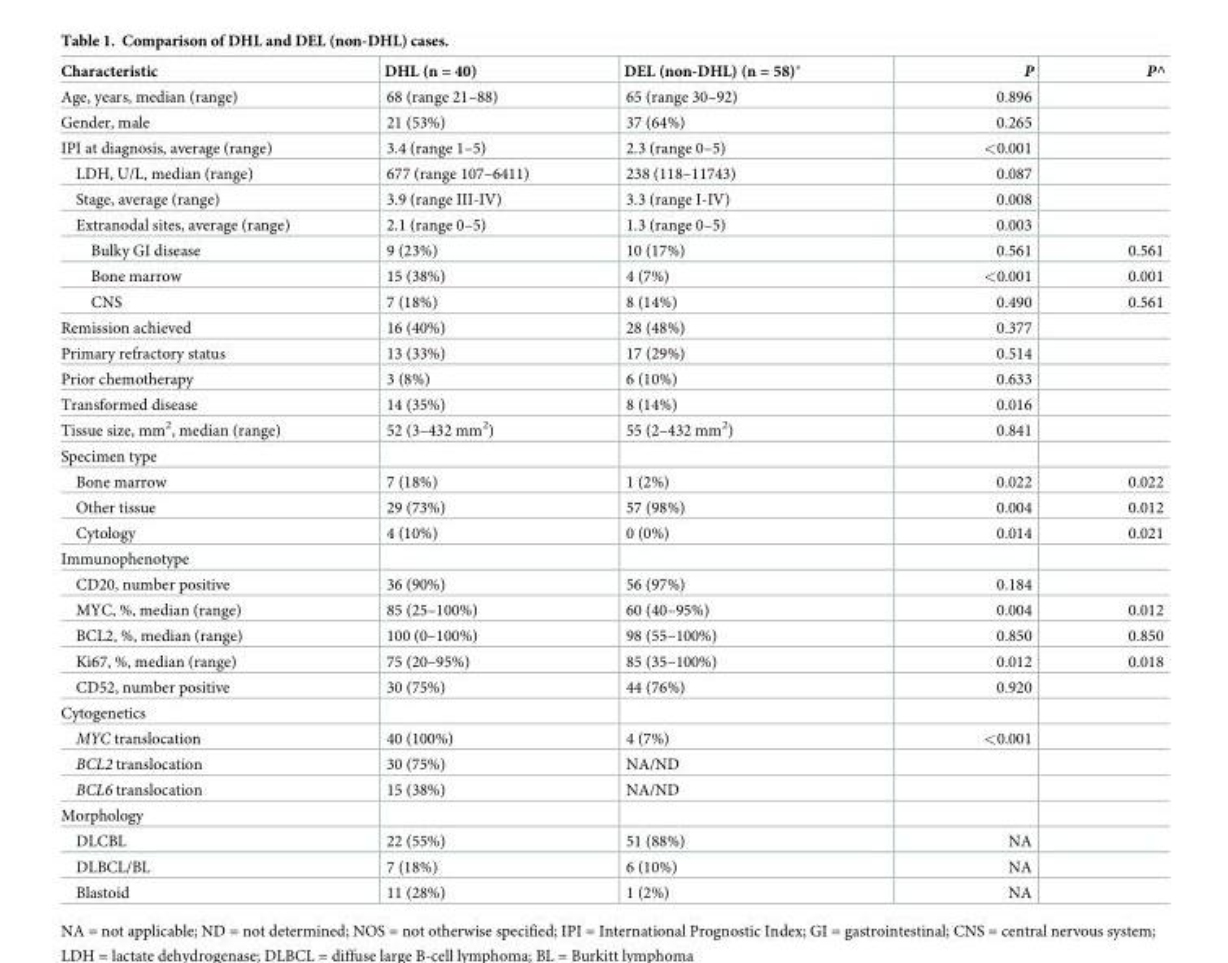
<table><thead><tr><td>Characteristic</td><td>DHL (n = 40)</td><td>DEL (non-DHL) (n = 58)*</td><td>P</td><td>P^</td></tr></thead><tbody><tr><td>Age, years, median (range)</td><td>68 (range 21–88)</td><td>65 (range 30–92)</td><td>0.896</td><td></td></tr><tr><td>Gender, male</td><td>21 (53%)</td><td>37 (64%)</td><td>0.265</td><td></td></tr><tr><td>IPI at diagnosis, average (range)</td><td>3.4 (range 1–5)</td><td>2.3 (range 0–5)</td><td>&lt;0.001</td><td></td></tr><tr><td>LDH, U/L, median (range)</td><td>677 (range 107–6411)</td><td>238 (118–11743)</td><td>0.087</td><td></td></tr><tr><td>Stage, average (range)</td><td>3.9 (range III-IV)</td><td>3.3 (range I-IV)</td><td>0.008</td><td></td></tr><tr><td>Extranodal sites, average (range)</td><td>2.1 (range 0–5)</td><td>1.3 (range 0–5)</td><td>0.003</td><td></td></tr><tr><td>Bulky GI disease</td><td>9 (23%)</td><td>10 (17%)</td><td>0.561</td><td>0.561</td></tr><tr><td>Bone marrow</td><td>15 (38%)</td><td>4 (7%)</td><td>&lt;0.001</td><td>0.001</td></tr><tr><td>CNS</td><td>7 (18%)</td><td>8 (14%)</td><td>0.490</td><td>0.561</td></tr><tr><td>Remission achieved</td><td>16 (40%)</td><td>28 (48%)</td><td>0.377</td><td></td></tr><tr><td>Primary refractory status</td><td>13 (33%)</td><td>17 (29%)</td><td>0.514</td><td></td></tr><tr><td>Prior chemotherapy</td><td>3 (8%)</td><td>6 (10%)</td><td>0.633</td><td></td></tr><tr><td>Transformed disease</td><td>14 (35%)</td><td>8 (14%)</td><td>0.016</td><td></td></tr><tr><td>Tissue size, mm<sup>2</sup>, median (range)</td><td>52 (3–432 mm<sup>2</sup>)</td><td>55 (2–432 mm<sup>2</sup>)</td><td>0.841</td><td></td></tr><tr><td colspan="5">Specimen type</td></tr><tr><td>Bone marrow</td><td>7 (18%)</td><td>1 (2%)</td><td>0.022</td><td>0.022</td></tr><tr><td>Other tissue</td><td>29 (73%)</td><td>57 (98%)</td><td>0.004</td><td>0.012</td></tr><tr><td>Cytology</td><td>4 (10%)</td><td>0 (0%)</td><td>0.014</td><td>0.021</td></tr><tr><td colspan="5">Immunophenotype</td></tr><tr><td>CD20, number positive</td><td>36 (90%)</td><td>56 (97%)</td><td>0.184</td><td></td></tr><tr><td>MYC, %, median (range)</td><td>85 (25–100%)</td><td>60 (40–95%)</td><td>0.004</td><td>0.012</td></tr><tr><td>BCL2, %, median (range)</td><td>100 (0–100%)</td><td>98 (55–100%)</td><td>0.850</td><td>0.850</td></tr><tr><td>Ki67, %, median (range)</td><td>75 (20–95%)</td><td>85 (35–100%)</td><td>0.012</td><td>0.018</td></tr><tr><td>CD52, number positive</td><td>30 (75%)</td><td>44 (76%)</td><td>0.920</td><td></td></tr><tr><td colspan="5">Cytogenetics</td></tr><tr><td>MYC translocation</td><td>40 (100%)</td><td>4 (7%)</td><td>&lt;0.001</td><td></td></tr><tr><td>BCL2 translocation</td><td>30 (75%)</td><td>NA/ND</td><td></td><td></td></tr><tr><td>BCL6 translocation</td><td>15 (38%)</td><td>NA/ND</td><td></td><td></td></tr><tr><td colspan="5">Morphology</td></tr><tr><td>DLCBL</td><td>22 (55%)</td><td>51 (88%)</td><td>NA</td><td></td></tr><tr><td>DLBCL/BL</td><td>7 (18%)</td><td>6 (10%)</td><td>NA</td><td></td></tr><tr><td>Blastoid</td><td>11 (28%)</td><td>1 (2%)</td><td>NA</td><td></td></tr></tbody></table>